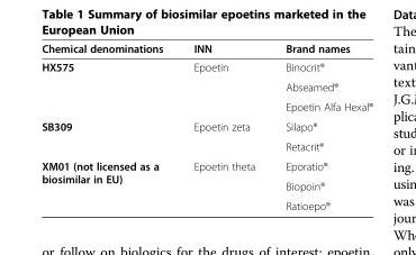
<table><thead><tr><td>Chemical denominations</td><td>INN</td><td>Brand names</td></tr></thead><tbody><tr><td rowspan="3">HX575</td><td rowspan="3">Epoetin</td><td>Binocrit®</td></tr><tr><td>Abseamed®</td></tr><tr><td>Epoetin Alfa Hexal®</td></tr><tr><td rowspan="2">SB309</td><td rowspan="2">Epoetin zeta</td><td>Silapo®</td></tr><tr><td>Retacrit®</td></tr><tr><td rowspan="3">XM01 (not licensed as a biosimilar in EU)</td><td rowspan="3">Epoetin theta</td><td>Eporatio®</td></tr><tr><td>Biopoin®</td></tr><tr><td>Ratioepo®</td></tr></tbody></table>